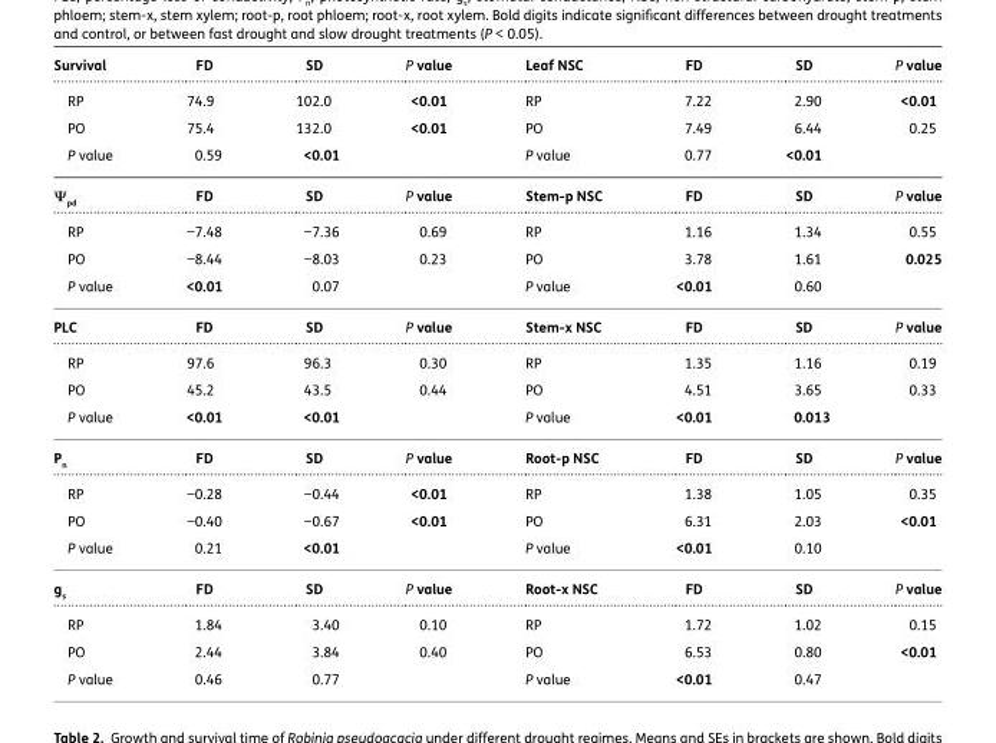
<table><thead><tr><td>Survival</td><td>FD</td><td>SD</td><td>P value</td><td>Leaf NSC</td><td>FD</td><td>SD</td><td>P value</td></tr></thead><tbody><tr><td>RP</td><td>74.9</td><td>102.0</td><td>&lt;0.01</td><td>RP</td><td>7.22</td><td>2.90</td><td>&lt;0.01</td></tr><tr><td>PO</td><td>75.4</td><td>132.0</td><td>&lt;0.01</td><td>PO</td><td>7.49</td><td>6.44</td><td>0.25</td></tr><tr><td>P value</td><td>0.59</td><td>&lt;0.01</td><td></td><td>P value</td><td>0.77</td><td>&lt;0.01</td><td></td></tr><tr><td>Ψ<sub>pd</sub></td><td>FD</td><td>SD</td><td>P value</td><td>Stem-p NSC</td><td>FD</td><td>SD</td><td>P value</td></tr><tr><td>RP</td><td>−7.48</td><td>−7.36</td><td>0.69</td><td>RP</td><td>1.16</td><td>1.34</td><td>0.55</td></tr><tr><td>PO</td><td>−8.44</td><td>−8.03</td><td>0.23</td><td>PO</td><td>3.78</td><td>1.61</td><td>0.025</td></tr><tr><td>P value</td><td>&lt;0.01</td><td>0.07</td><td></td><td>P value</td><td>&lt;0.01</td><td>0.60</td><td></td></tr><tr><td>PLC</td><td>FD</td><td>SD</td><td>P value</td><td>Stem-x NSC</td><td>FD</td><td>SD</td><td>P value</td></tr><tr><td>RP</td><td>97.6</td><td>96.3</td><td>0.30</td><td>RP</td><td>1.35</td><td>1.16</td><td>0.19</td></tr><tr><td>PO</td><td>45.2</td><td>43.5</td><td>0.44</td><td>PO</td><td>4.51</td><td>3.65</td><td>0.33</td></tr><tr><td>P value</td><td>&lt;0.01</td><td>&lt;0.01</td><td></td><td>P value</td><td>&lt;0.01</td><td>0.013</td><td></td></tr><tr><td>P<sub>n</sub></td><td>FD</td><td>SD</td><td>P value</td><td>Root-p NSC</td><td>FD</td><td>SD</td><td>P value</td></tr><tr><td>RP</td><td>−0.28</td><td>−0.44</td><td>&lt;0.01</td><td>RP</td><td>1.38</td><td>1.05</td><td>0.35</td></tr><tr><td>PO</td><td>−0.40</td><td>−0.67</td><td>&lt;0.01</td><td>PO</td><td>6.31</td><td>2.03</td><td>&lt;0.01</td></tr><tr><td>P value</td><td>0.21</td><td>&lt;0.01</td><td></td><td>P value</td><td>&lt;0.01</td><td>0.10</td><td></td></tr><tr><td>g<sub>s</sub></td><td>FD</td><td>SD</td><td>P value</td><td>Root-x NSC</td><td>FD</td><td>SD</td><td>P value</td></tr><tr><td>RP</td><td>1.84</td><td>3.40</td><td>0.10</td><td>RP</td><td>1.72</td><td>1.02</td><td>0.15</td></tr><tr><td>PO</td><td>2.44</td><td>3.84</td><td>0.40</td><td>PO</td><td>6.53</td><td>0.80</td><td>&lt;0.01</td></tr><tr><td>P value</td><td>0.46</td><td>0.77</td><td></td><td>P value</td><td>&lt;0.01</td><td>0.47</td><td></td></tr></tbody></table>